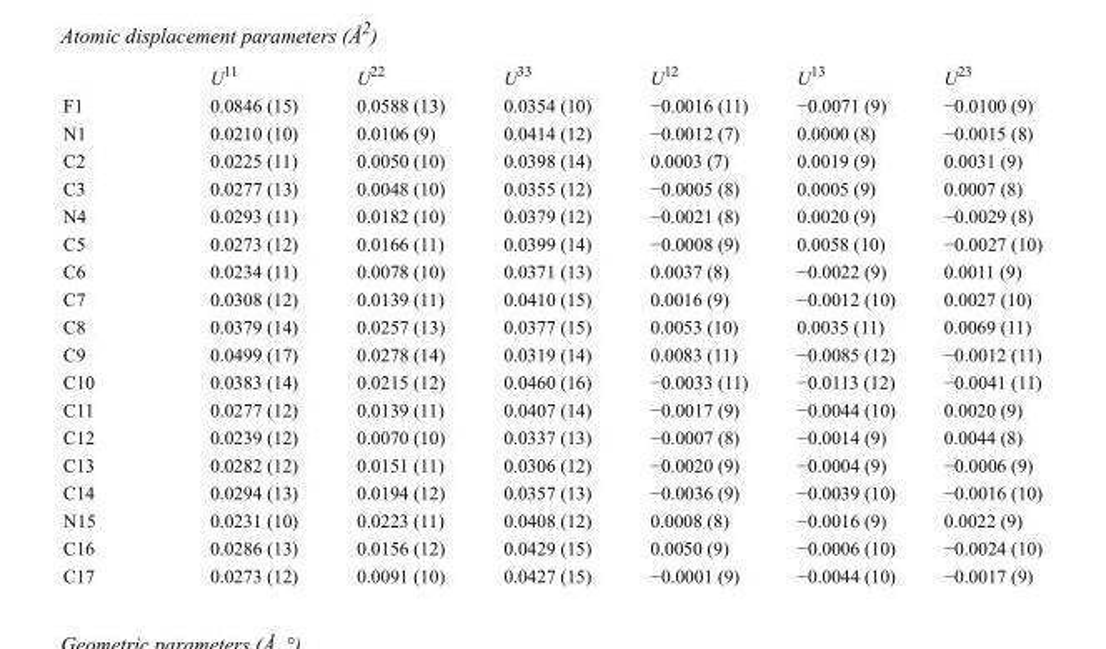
<table><thead><tr><td></td><td>U<sup>11</sup></td><td>U<sup>22</sup></td><td>U<sup>33</sup></td><td>U<sup>12</sup></td><td>U<sup>13</sup></td><td>U<sup>23</sup></td></tr></thead><tbody><tr><td>F1</td><td>0.0846 (15)</td><td>0.0588 (13)</td><td>0.0354 (10)</td><td>−0.0016 (11)</td><td>−0.0071 (9)</td><td>−0.0100 (9)</td></tr><tr><td>N1</td><td>0.0210 (10)</td><td>0.0106 (9)</td><td>0.0414 (12)</td><td>−0.0012 (7)</td><td>0.0000 (8)</td><td>−0.0015 (8)</td></tr><tr><td>C2</td><td>0.0225 (11)</td><td>0.0050 (10)</td><td>0.0398 (14)</td><td>0.0003 (7)</td><td>0.0019 (9)</td><td>0.0031 (9)</td></tr><tr><td>C3</td><td>0.0277 (13)</td><td>0.0048 (10)</td><td>0.0355 (12)</td><td>−0.0005 (8)</td><td>0.0005 (9)</td><td>0.0007 (8)</td></tr><tr><td>N4</td><td>0.0293 (11)</td><td>0.0182 (10)</td><td>0.0379 (12)</td><td>−0.0021 (8)</td><td>0.0020 (9)</td><td>−0.0029 (8)</td></tr><tr><td>C5</td><td>0.0273 (12)</td><td>0.0166 (11)</td><td>0.0399 (14)</td><td>−0.0008 (9)</td><td>0.0058 (10)</td><td>−0.0027 (10)</td></tr><tr><td>C6</td><td>0.0234 (11)</td><td>0.0078 (10)</td><td>0.0371 (13)</td><td>0.0037 (8)</td><td>−0.0022 (9)</td><td>0.0011 (9)</td></tr><tr><td>C7</td><td>0.0308 (12)</td><td>0.0139 (11)</td><td>0.0410 (15)</td><td>0.0016 (9)</td><td>−0.0012 (10)</td><td>0.0027 (10)</td></tr><tr><td>C8</td><td>0.0379 (14)</td><td>0.0257 (13)</td><td>0.0377 (15)</td><td>0.0053 (10)</td><td>0.0035 (11)</td><td>0.0069 (11)</td></tr><tr><td>C9</td><td>0.0499 (17)</td><td>0.0278 (14)</td><td>0.0319 (14)</td><td>0.0083 (11)</td><td>−0.0085 (12)</td><td>−0.0012 (11)</td></tr><tr><td>C10</td><td>0.0383 (14)</td><td>0.0215 (12)</td><td>0.0460 (16)</td><td>−0.0033 (11)</td><td>−0.0113 (12)</td><td>−0.0041 (11)</td></tr><tr><td>C11</td><td>0.0277 (12)</td><td>0.0139 (11)</td><td>0.0407 (14)</td><td>−0.0017 (9)</td><td>−0.0044 (10)</td><td>0.0020 (9)</td></tr><tr><td>C12</td><td>0.0239 (12)</td><td>0.0070 (10)</td><td>0.0337 (13)</td><td>−0.0007 (8)</td><td>−0.0014 (9)</td><td>0.0044 (8)</td></tr><tr><td>C13</td><td>0.0282 (12)</td><td>0.0151 (11)</td><td>0.0306 (12)</td><td>−0.0020 (9)</td><td>−0.0004 (9)</td><td>−0.0006 (9)</td></tr><tr><td>C14</td><td>0.0294 (13)</td><td>0.0194 (12)</td><td>0.0357 (13)</td><td>−0.0036 (9)</td><td>−0.0039 (10)</td><td>−0.0016 (10)</td></tr><tr><td>N15</td><td>0.0231 (10)</td><td>0.0223 (11)</td><td>0.0408 (12)</td><td>0.0008 (8)</td><td>−0.0016 (9)</td><td>0.0022 (9)</td></tr><tr><td>C16</td><td>0.0286 (13)</td><td>0.0156 (12)</td><td>0.0429 (15)</td><td>0.0050 (9)</td><td>−0.0006 (10)</td><td>−0.0024 (10)</td></tr><tr><td>C17</td><td>0.0273 (12)</td><td>0.0091 (10)</td><td>0.0427 (15)</td><td>−0.0001 (9)</td><td>−0.0044 (10)</td><td>−0.0017 (9)</td></tr></tbody></table>